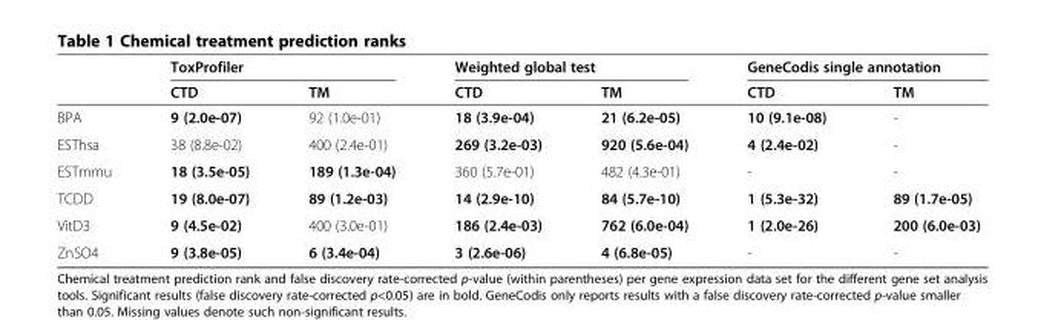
<table><thead><tr><td rowspan="2"></td><td colspan="2">ToxProfiler</td><td colspan="2">Weighted global test</td><td colspan="2">GeneCodis single annotation</td></tr><tr><td>CTD</td><td>TM</td><td>CTD</td><td>TM</td><td>CTD</td><td>TM</td></tr></thead><tbody><tr><td>BPA</td><td>9 (2.0e-07)</td><td>92 (1.0e-01)</td><td>18 (3.9e-04)</td><td>21 (6.2e-05)</td><td>10 (9.1e-08)</td><td>-</td></tr><tr><td>ESThsa</td><td>38 (8.8e-02)</td><td>400 (2.4e-01)</td><td>269 (3.2e-03)</td><td>920 (5.6e-04)</td><td>4 (2.4e-02)</td><td>-</td></tr><tr><td>ESTmmu</td><td>18 (3.5e-05)</td><td>189 (1.3e-04)</td><td>360 (5.7e-01)</td><td>482 (4.3e-01)</td><td>-</td><td>-</td></tr><tr><td>TCDD</td><td>19 (8.0e-07)</td><td>89 (1.2e-03)</td><td>14 (2.9e-10)</td><td>84 (5.7e-10)</td><td>1 (5.3e-32)</td><td>89 (1.7e-05)</td></tr><tr><td>VitD3</td><td>9 (4.5e-02)</td><td>400 (3.0e-01)</td><td>186 (2.4e-03)</td><td>762 (6.0e-04)</td><td>1 (2.0e-26)</td><td>200 (6.0e-03)</td></tr><tr><td>ZnSO4</td><td>9 (3.8e-05)</td><td>6 (3.4e-04)</td><td>3 (2.6e-06)</td><td>4 (6.8e-05)</td><td>-</td><td>-</td></tr></tbody></table>